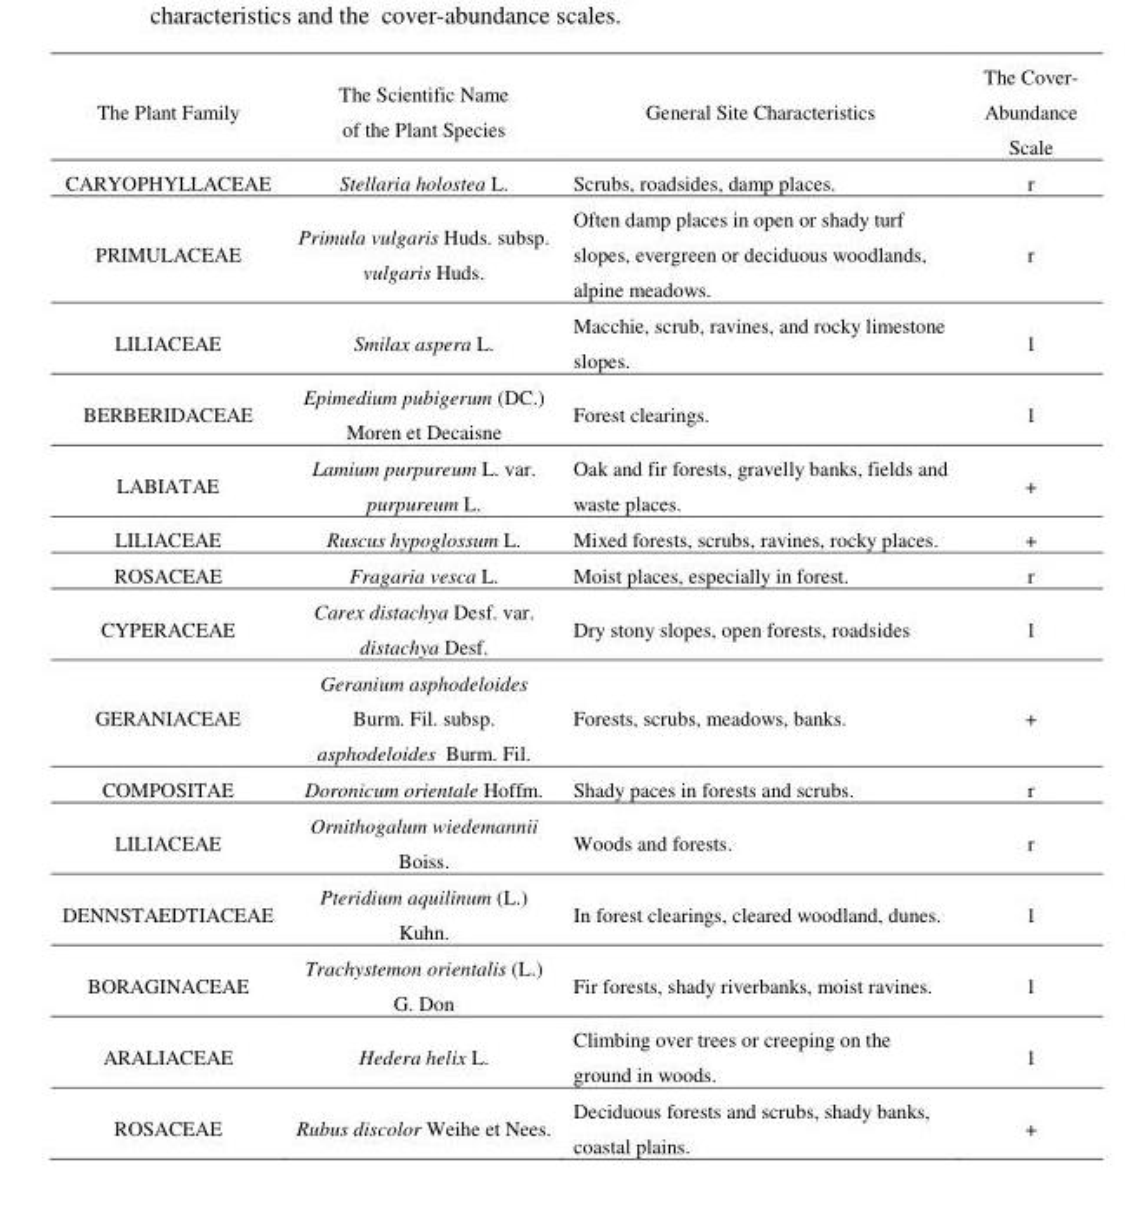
<table><thead><tr><td>The Plant Family</td><td>The Scientific Name of the Plant Species</td><td>General Site Characteristics</td><td>The Cover- Abundance Scale</td></tr></thead><tbody><tr><td>CARYOPHYLLACEAE</td><td>Stellaria holostea L.</td><td>Scrubs, roadsides, damp places.</td><td>r</td></tr><tr><td>PRIMULACEAE</td><td>Primula vulgaris Huds. subsp. vulgaris Huds.</td><td>Often damp places in open or shady turf slopes, evergreen or deciduous woodlands, alpine meadows.</td><td>r</td></tr><tr><td>LILIACEAE</td><td>Smilax aspera L.</td><td>Macchie, scrub, ravines, and rocky limestone slopes.</td><td>1</td></tr><tr><td>BERBERIDACEAE</td><td>Epimedium pubigerum (DC.) Moren et Decaisne</td><td>Forest clearings.</td><td>1</td></tr><tr><td>LABIATAE</td><td>Lamium purpureum L. var. purpureum L.</td><td>Oak and fir forests, gravelly banks, fields and waste places.</td><td>+</td></tr><tr><td>LILIACEAE</td><td>Ruscus hypoglossum L.</td><td>Mixed forests, scrubs, ravines, rocky places.</td><td>+</td></tr><tr><td>ROSACEAE</td><td>Fragaria vesca L.</td><td>Moist places, especially in forest.</td><td>r</td></tr><tr><td>CYPERACEAE</td><td>Carex distachya Desf. var. distachya Desf.</td><td>Dry stony slopes, open forests, roadsides</td><td>1</td></tr><tr><td>GERANIACEAE</td><td>Geranium asphodeloides Burm. Fil. subsp. asphodeloides Burm. Fil.</td><td>Forests, scrubs, meadows, banks.</td><td>+</td></tr><tr><td>COMPOSITAE</td><td>Doronicum orientale Hoffm.</td><td>Shady paces in forests and scrubs.</td><td>r</td></tr><tr><td>LILIACEAE</td><td>Ornithogalum wiedemannii Boiss.</td><td>Woods and forests.</td><td>r</td></tr><tr><td>DENNSTAEDTIACEAE</td><td>Pteridium aquilinum (L.) Kuhn.</td><td>In forest clearings, cleared woodland, dunes.</td><td>1</td></tr><tr><td>BORAGINACEAE</td><td>Trachystemon orientalis (L.) G. Don</td><td>Fir forests, shady riverbanks, moist ravines.</td><td>1</td></tr><tr><td>ARALIACEAE</td><td>Hedera helix L.</td><td>Climbing over trees or creeping on the ground in woods.</td><td>1</td></tr><tr><td>ROSACEAE</td><td>Rubus discolor Weihe et Nees.</td><td>Deciduous forests and scrubs, shady banks, coastal plains.</td><td>+</td></tr></tbody></table>